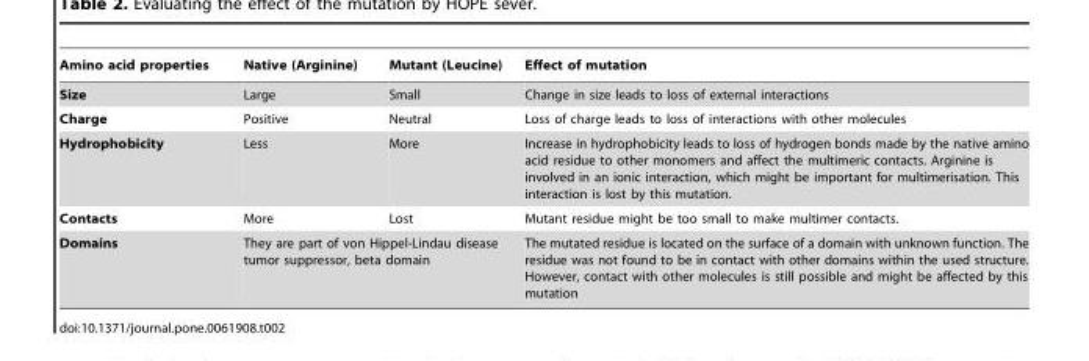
<table><thead><tr><td>Amino acid properties</td><td>Native (Arginine)</td><td>Mutant (Leucine)</td><td>Effect of mutation</td></tr></thead><tbody><tr><td>Size</td><td>Large</td><td>Small</td><td>Change in size leads to loss of external interactions</td></tr><tr><td>Charge</td><td>Positive</td><td>Neutral</td><td>Loss of charge leads to loss of interactions with other molecules</td></tr><tr><td>Hydrophobicity</td><td>Less</td><td>More</td><td>Increase in hydrophobicity leads to loss of hydrogen bonds made by the native amino acid residue to other monomers and affect the multimeric contacts. Arginine is involved in an ionic interaction, which might be important for multimerisation. This interaction is lost by this mutation.</td></tr><tr><td>Contacts</td><td>More</td><td>Lost</td><td>Mutant residue might be too small to make multimer contacts.</td></tr><tr><td>Domains</td><td colspan="2">They are part of von Hippel-Lindau disease tumor suppressor, beta domain</td><td>The mutated residue is located on the surface of a domain with unknown function. The residue was not found to be in contact with other domains within the used structure. However, contact with other molecules is still possible and might be affected by this mutation</td></tr></tbody></table>